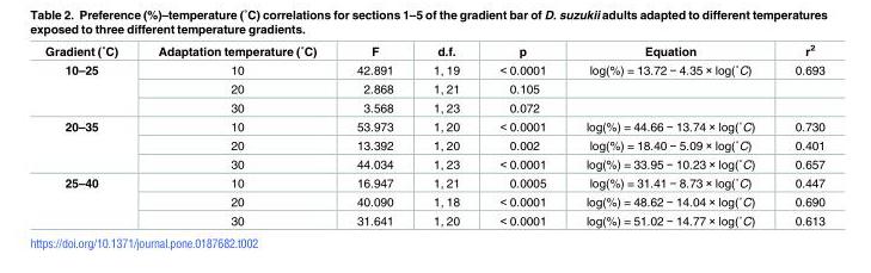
<table><thead><tr><td>Gradient (˚C)</td><td>Adaptation temperature (˚C)</td><td>F</td><td>d.f.</td><td>p</td><td>Equation</td><td>r<sup>2</sup></td></tr></thead><tbody><tr><td rowspan="3">10–25</td><td>10</td><td>42.891</td><td>1, 19</td><td>&lt; 0.0001</td><td>log(%) = 13.72 − 4.35 × log(˚C)</td><td>0.693</td></tr><tr><td>20</td><td>2.868</td><td>1, 21</td><td>0.105</td><td></td><td></td></tr><tr><td>30</td><td>3.568</td><td>1, 23</td><td>0.072</td><td></td><td></td></tr><tr><td rowspan="3">20–35</td><td>10</td><td>53.973</td><td>1, 20</td><td>&lt; 0.0001</td><td>log(%) = 44.66 − 13.74 × log(˚C)</td><td>0.730</td></tr><tr><td>20</td><td>13.392</td><td>1, 20</td><td>0.002</td><td>log(%) = 18.40 − 5.09 × log(˚C)</td><td>0.401</td></tr><tr><td>30</td><td>44.034</td><td>1, 23</td><td>&lt; 0.0001</td><td>log(%) = 33.95 − 10.23 × log(˚C)</td><td>0.657</td></tr><tr><td rowspan="3">25–40</td><td>10</td><td>16.947</td><td>1, 21</td><td>0.0005</td><td>log(%) = 31.41 − 8.73 × log(˚C)</td><td>0.447</td></tr><tr><td>20</td><td>40.090</td><td>1, 18</td><td>&lt; 0.0001</td><td>log(%) = 48.62 − 14.04 × log(˚C)</td><td>0.690</td></tr><tr><td>30</td><td>31.641</td><td>1, 20</td><td>&lt; 0.0001</td><td>log(%) = 51.02 − 14.77 × log(˚C)</td><td>0.613</td></tr></tbody></table>